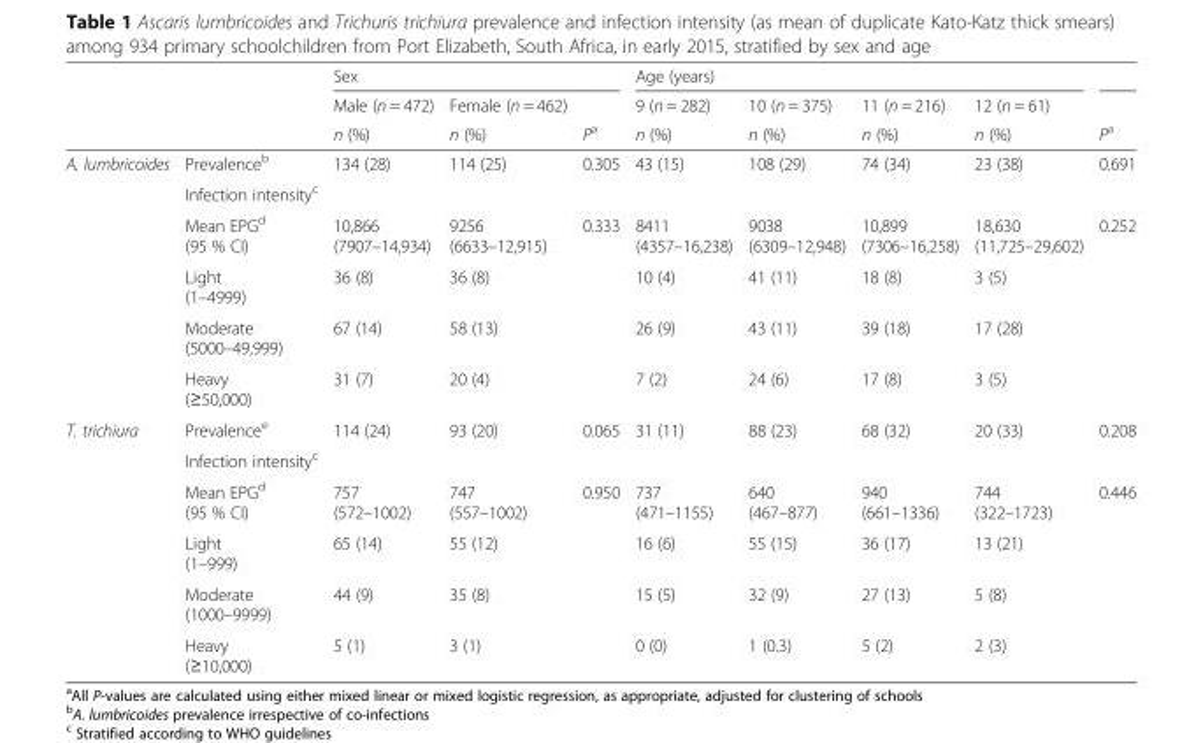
<table><thead><tr><td rowspan="3"></td><td rowspan="3"></td><td colspan="2">Sex</td><td rowspan="3">P<sup>a</sup></td><td colspan="3">Age (years)</td><td rowspan="3">12 (n = 61) n (%)</td><td rowspan="3">P<sup>a</sup></td></tr><tr><td rowspan="2">Male (n = 472) n (%)</td><td rowspan="2">Female (n = 462) n (%)</td><td rowspan="2">9 (n = 282) n (%)</td><td rowspan="2">10 (n = 375) n (%)</td><td rowspan="2">11 (n = 216) n (%)</td></tr><tr></tr></thead><tbody><tr><td rowspan="6">A. lumbricoides</td><td>Prevalence<sup>b</sup></td><td>134 (28)</td><td>114 (25)</td><td>0.305</td><td>43 (15)</td><td>108 (29)</td><td>74 (34)</td><td>23 (38)</td><td>0.691</td></tr><tr><td>Infection intensity<sup>c</sup></td><td></td><td></td><td></td><td></td><td></td><td></td><td></td><td></td></tr><tr><td>Mean EPG<sup>d</sup> (95 % CI)</td><td>10,866 (7907–14,934)</td><td>9256 (6633–12,915)</td><td>0.333</td><td>8411 (4357–16,238)</td><td>9038 (6309–12,948)</td><td>10,899 (7306–16,258)</td><td>18,630 (11,725–29,602)</td><td>0.252</td></tr><tr><td>Light (1–4999)</td><td>36 (8)</td><td>36 (8)</td><td></td><td>10 (4)</td><td>41 (11)</td><td>18 (8)</td><td>3 (5)</td><td></td></tr><tr><td>Moderate (5000–49,999)</td><td>67 (14)</td><td>58 (13)</td><td></td><td>26 (9)</td><td>43 (11)</td><td>39 (18)</td><td>17 (28)</td><td></td></tr><tr><td>Heavy (≥50,000)</td><td>31 (7)</td><td>20 (4)</td><td></td><td>7 (2)</td><td>24 (6)</td><td>17 (8)</td><td>3 (5)</td><td></td></tr><tr><td rowspan="6">T. trichiura</td><td>Prevalence<sup>e</sup></td><td>114 (24)</td><td>93 (20)</td><td>0.065</td><td>31 (11)</td><td>88 (23)</td><td>68 (32)</td><td>20 (33)</td><td>0.208</td></tr><tr><td>Infection intensity<sup>c</sup></td><td></td><td></td><td></td><td></td><td></td><td></td><td></td><td></td></tr><tr><td>Mean EPG<sup>d</sup> (95 % CI)</td><td>757 (572–1002)</td><td>747 (557–1002)</td><td>0.950</td><td>737 (471–1155)</td><td>640 (467–877)</td><td>940 (661–1336)</td><td>744 (322–1723)</td><td>0.446</td></tr><tr><td>Light (1–999)</td><td>65 (14)</td><td>55 (12)</td><td></td><td>16 (6)</td><td>55 (15)</td><td>36 (17)</td><td>13 (21)</td><td></td></tr><tr><td>Moderate (1000–9999)</td><td>44 (9)</td><td>35 (8)</td><td></td><td>15 (5)</td><td>32 (9)</td><td>27 (13)</td><td>5 (8)</td><td></td></tr><tr><td>Heavy (≥10,000)</td><td>5 (1)</td><td>3 (1)</td><td></td><td>0 (0)</td><td>1 (0.3)</td><td>5 (2)</td><td>2 (3)</td><td></td></tr></tbody></table>